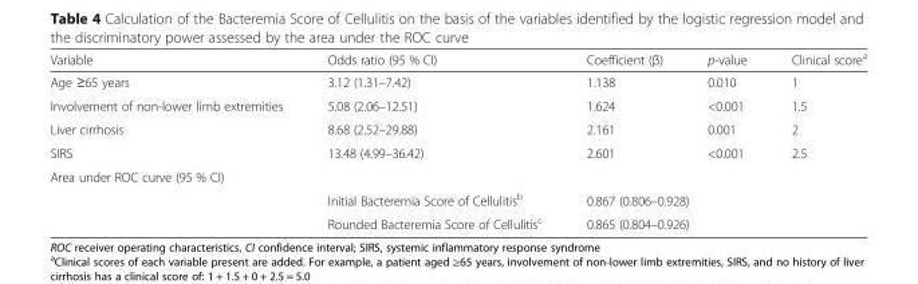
<table><thead><tr><td>Variable</td><td>Odds ratio (95 % CI)</td><td>Coefficient (β)</td><td>p-value</td><td>Clinical score<sup>a</sup></td></tr></thead><tbody><tr><td>Age ≥65 years</td><td>3.12 (1.31–7.42)</td><td>1.138</td><td>0.010</td><td>1</td></tr><tr><td>Involvement of non-lower limb extremities</td><td>5.08 (2.06–12.51)</td><td>1.624</td><td>&lt;0.001</td><td>1.5</td></tr><tr><td>Liver cirrhosis</td><td>8.68 (2.52–29.88)</td><td>2.161</td><td>0.001</td><td>2</td></tr><tr><td>SIRS</td><td>13.48 (4.99–36.42)</td><td>2.601</td><td>&lt;0.001</td><td>2.5</td></tr><tr><td colspan="5">Area under ROC curve (95 % CI)</td></tr><tr><td></td><td>Initial Bacteremia Score of Cellulitis<sup>b</sup></td><td colspan="3">0.867 (0.806–0.928)</td></tr><tr><td></td><td>Rounded Bacteremia Score of Cellulitis<sup>c</sup></td><td colspan="3">0.865 (0.804–0.926)</td></tr></tbody></table>